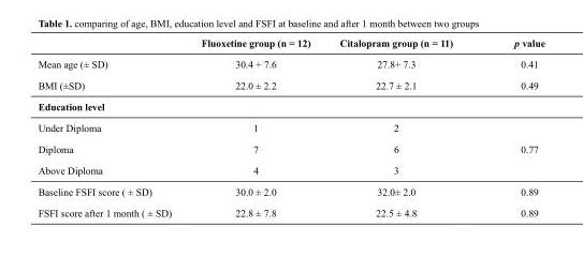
<table><thead><tr><td></td><td>Fluoxetine group (n = 12)</td><td>Citalopram group (n = 11)</td><td>p value</td></tr></thead><tbody><tr><td>Mean age (± SD)</td><td>30.4 + 7.6</td><td>27.8+ 7.3</td><td>0.41</td></tr><tr><td>BMI (±SD)</td><td>22.0 ± 2.2</td><td>22.7 ± 2.1</td><td>0.49</td></tr><tr><td colspan="4">Education level</td></tr><tr><td>Under Diploma</td><td>1</td><td>2</td><td></td></tr><tr><td>Diploma</td><td>7</td><td>6</td><td>0.77</td></tr><tr><td>Above Diploma</td><td>4</td><td>3</td><td></td></tr><tr><td>Baseline FSFI score ( ± SD)</td><td>30.0 ± 2.0</td><td>32.0± 2.0</td><td>0.89</td></tr><tr><td>FSFI score after 1 month ( ± SD)</td><td>22.8 ± 7.8</td><td>22.5 ± 4.8</td><td>0.89</td></tr></tbody></table>